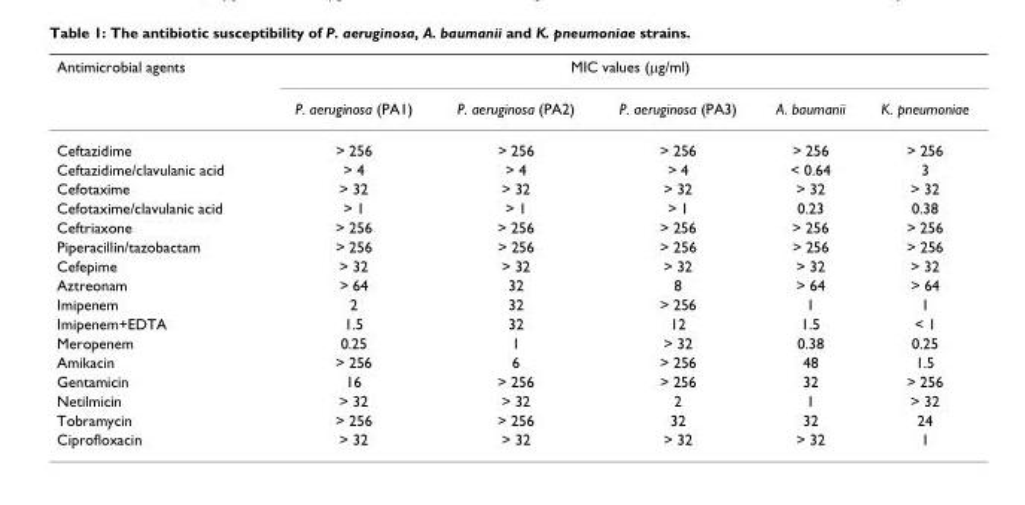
<table><thead><tr><td rowspan="2">Antimicrobial agents</td><td colspan="5">MIC values (μg/ml)</td></tr><tr><td>P. aeruginosa (PA1)</td><td>P. aeruginosa (PA2)</td><td>P. aeruginosa (PA3)</td><td>A. baumanii</td><td>K. pneumoniae</td></tr></thead><tbody><tr><td>Ceftazidime</td><td>&gt; 256</td><td>&gt; 256</td><td>&gt; 256</td><td>&gt; 256</td><td>&gt; 256</td></tr><tr><td>Ceftazidime/clavulanic acid</td><td>&gt; 4</td><td>&gt; 4</td><td>&gt; 4</td><td>&lt; 0.64</td><td>3</td></tr><tr><td>Cefotaxime</td><td>&gt; 32</td><td>&gt; 32</td><td>&gt; 32</td><td>&gt; 32</td><td>&gt; 32</td></tr><tr><td>Cefotaxime/clavulanic acid</td><td>&gt; 1</td><td>&gt; 1</td><td>&gt; 1</td><td>0.23</td><td>0.38</td></tr><tr><td>Ceftriaxone</td><td>&gt; 256</td><td>&gt; 256</td><td>&gt; 256</td><td>&gt; 256</td><td>&gt; 256</td></tr><tr><td>Piperacillin/tazobactam</td><td>&gt; 256</td><td>&gt; 256</td><td>&gt; 256</td><td>&gt; 256</td><td>&gt; 256</td></tr><tr><td>Cefepime</td><td>&gt; 32</td><td>&gt; 32</td><td>&gt; 32</td><td>&gt; 32</td><td>&gt; 32</td></tr><tr><td>Aztreonam</td><td>&gt; 64</td><td>32</td><td>8</td><td>&gt; 64</td><td>&gt; 64</td></tr><tr><td>Imipenem</td><td>2</td><td>32</td><td>&gt; 256</td><td>1</td><td>1</td></tr><tr><td>Imipenem+EDTA</td><td>1.5</td><td>32</td><td>12</td><td>1.5</td><td>&lt; 1</td></tr><tr><td>Meropenem</td><td>0.25</td><td>1</td><td>&gt; 32</td><td>0.38</td><td>0.25</td></tr><tr><td>Amikacin</td><td>&gt; 256</td><td>6</td><td>&gt; 256</td><td>48</td><td>1.5</td></tr><tr><td>Gentamicin</td><td>16</td><td>&gt; 256</td><td>&gt; 256</td><td>32</td><td>&gt; 256</td></tr><tr><td>Netilmicin</td><td>&gt; 32</td><td>&gt; 32</td><td>2</td><td>1</td><td>&gt; 32</td></tr><tr><td>Tobramycin</td><td>&gt; 256</td><td>&gt; 256</td><td>32</td><td>32</td><td>24</td></tr><tr><td>Ciprofloxacin</td><td>&gt; 32</td><td>&gt; 32</td><td>&gt; 32</td><td>&gt; 32</td><td>1</td></tr></tbody></table>